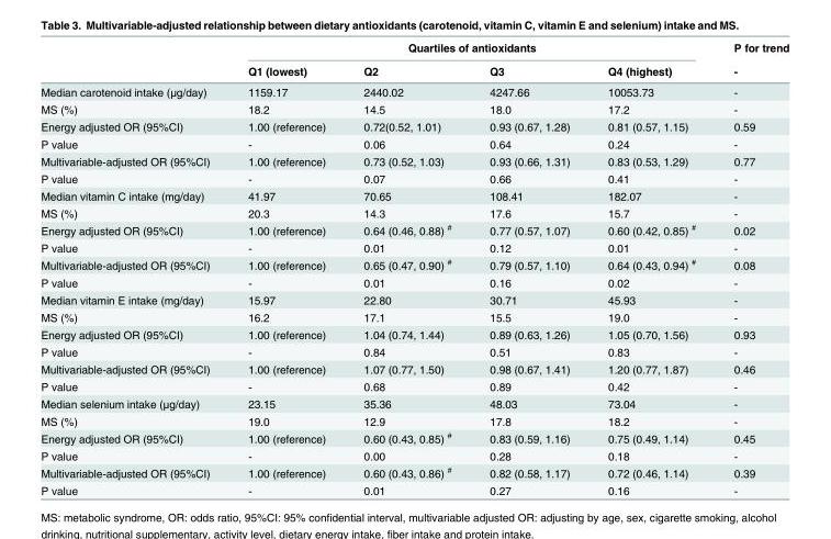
<table><thead><tr><td rowspan="2"></td><td colspan="4">Quartiles of antioxidants</td><td rowspan="2">P for trend -</td></tr><tr><td>Q1 (lowest)</td><td>Q2</td><td>Q3</td><td>Q4 (highest)</td></tr></thead><tbody><tr><td>Median carotenoid intake (μg/day)</td><td>1159.17</td><td>2440.02</td><td>4247.66</td><td>10053.73</td><td>-</td></tr><tr><td>MS (%)</td><td>18.2</td><td>14.5</td><td>18.0</td><td>17.2</td><td>-</td></tr><tr><td>Energy adjusted OR (95%CI)</td><td>1.00 (reference)</td><td>0.72(0.52, 1.01)</td><td>0.93 (0.67, 1.28)</td><td>0.81 (0.57, 1.15)</td><td>0.59</td></tr><tr><td>P value</td><td>-</td><td>0.06</td><td>0.64</td><td>0.24</td><td>-</td></tr><tr><td>Multivariable-adjusted OR (95%CI)</td><td>1.00 (reference)</td><td>0.73 (0.52, 1.03)</td><td>0.93 (0.66, 1.31)</td><td>0.83 (0.53, 1.29)</td><td>0.77</td></tr><tr><td>P value</td><td>-</td><td>0.07</td><td>0.66</td><td>0.41</td><td>-</td></tr><tr><td>Median vitamin C intake (mg/day)</td><td>41.97</td><td>70.65</td><td>108.41</td><td>182.07</td><td>-</td></tr><tr><td>MS (%)</td><td>20.3</td><td>14.3</td><td>17.6</td><td>15.7</td><td>-</td></tr><tr><td>Energy adjusted OR (95%CI)</td><td>1.00 (reference)</td><td>0.64 (0.46, 0.88) <sup>#</sup></td><td>0.77 (0.57, 1.07)</td><td>0.60 (0.42, 0.85) <sup>#</sup></td><td>0.02</td></tr><tr><td>P value</td><td>-</td><td>0.01</td><td>0.12</td><td>0.01</td><td>-</td></tr><tr><td>Multivariable-adjusted OR (95%CI)</td><td>1.00 (reference)</td><td>0.65 (0.47, 0.90) <sup>#</sup></td><td>0.79 (0.57, 1.10)</td><td>0.64 (0.43, 0.94) <sup>#</sup></td><td>0.08</td></tr><tr><td>P value</td><td>-</td><td>0.01</td><td>0.16</td><td>0.02</td><td>-</td></tr><tr><td>Median vitamin E intake (mg/day)</td><td>15.97</td><td>22.80</td><td>30.71</td><td>45.93</td><td>-</td></tr><tr><td>MS (%)</td><td>16.2</td><td>17.1</td><td>15.5</td><td>19.0</td><td>-</td></tr><tr><td>Energy adjusted OR (95%CI)</td><td>1.00 (reference)</td><td>1.04 (0.74, 1.44)</td><td>0.89 (0.63, 1.26)</td><td>1.05 (0.70, 1.56)</td><td>0.93</td></tr><tr><td>P value</td><td>-</td><td>0.84</td><td>0.51</td><td>0.83</td><td>-</td></tr><tr><td>Multivariable-adjusted OR (95%CI)</td><td>1.00 (reference)</td><td>1.07 (0.77, 1.50)</td><td>0.98 (0.67, 1.41)</td><td>1.20 (0.77, 1.87)</td><td>0.46</td></tr><tr><td>P value</td><td>-</td><td>0.68</td><td>0.89</td><td>0.42</td><td>-</td></tr><tr><td>Median selenium intake (μg/day)</td><td>23.15</td><td>35.36</td><td>48.03</td><td>73.04</td><td>-</td></tr><tr><td>MS (%)</td><td>19.0</td><td>12.9</td><td>17.8</td><td>18.2</td><td>-</td></tr><tr><td>Energy adjusted OR (95%CI)</td><td>1.00 (reference)</td><td>0.60 (0.43, 0.85) <sup>#</sup></td><td>0.83 (0.59, 1.16)</td><td>0.75 (0.49, 1.14)</td><td>0.45</td></tr><tr><td>P value</td><td>-</td><td>0.00</td><td>0.28</td><td>0.18</td><td>-</td></tr><tr><td>Multivariable-adjusted OR (95%CI)</td><td>1.00 (reference)</td><td>0.60 (0.43, 0.86) <sup>#</sup></td><td>0.82 (0.58, 1.17)</td><td>0.72 (0.46, 1.14)</td><td>0.39</td></tr><tr><td>P value</td><td>-</td><td>0.01</td><td>0.27</td><td>0.16</td><td>-</td></tr></tbody></table>